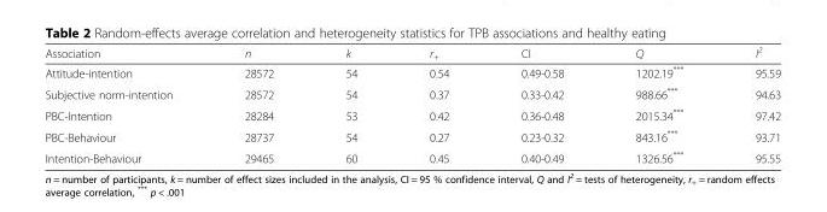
<table><thead><tr><td>Association</td><td>n</td><td>k</td><td>r<sub>+</sub></td><td>CI</td><td>Q</td><td>I<sup>2</sup></td></tr></thead><tbody><tr><td>Attitude-intention</td><td>28572</td><td>54</td><td>0.54</td><td>0.49-0.58</td><td>1202.19***</td><td>95.59</td></tr><tr><td>Subjective norm-intention</td><td>28572</td><td>54</td><td>0.37</td><td>0.33-0.42</td><td>988.66***</td><td>94.63</td></tr><tr><td>PBC-Intention</td><td>28284</td><td>53</td><td>0.42</td><td>0.36-0.48</td><td>2015.34***</td><td>97.42</td></tr><tr><td>PBC-Behaviour</td><td>28737</td><td>54</td><td>0.27</td><td>0.23-0.32</td><td>843.16***</td><td>93.71</td></tr><tr><td>Intention-Behaviour</td><td>29465</td><td>60</td><td>0.45</td><td>0.40-0.49</td><td>1326.56***</td><td>95.55</td></tr></tbody></table>